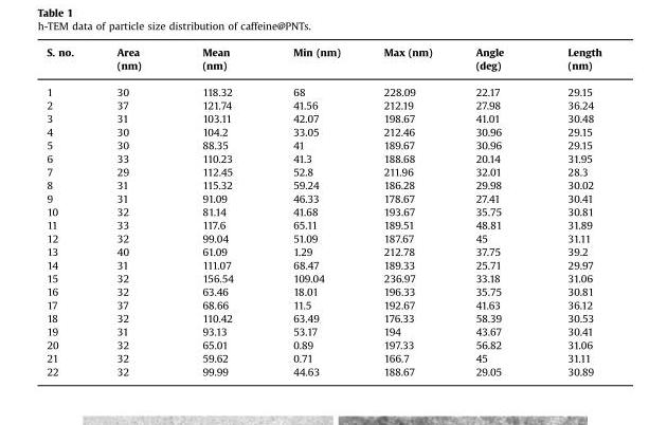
<table><thead><tr><td>S. no.</td><td>Area (nm)</td><td>Mean (nm)</td><td>Min (nm)</td><td>Max (nm)</td><td>Angle (deg)</td><td>Length (nm)</td></tr></thead><tbody><tr><td>1</td><td>30</td><td>118.32</td><td>68</td><td>228.09</td><td>22.17</td><td>29.15</td></tr><tr><td>2</td><td>37</td><td>121.74</td><td>41.56</td><td>212.19</td><td>27.98</td><td>36.24</td></tr><tr><td>3</td><td>31</td><td>103.11</td><td>42.07</td><td>198.67</td><td>41.01</td><td>30.48</td></tr><tr><td>4</td><td>30</td><td>104.2</td><td>33.05</td><td>212.46</td><td>30.96</td><td>29.15</td></tr><tr><td>5</td><td>30</td><td>88.35</td><td>41</td><td>189.67</td><td>30.96</td><td>29.15</td></tr><tr><td>6</td><td>33</td><td>110.23</td><td>41.3</td><td>188.68</td><td>20.14</td><td>31.95</td></tr><tr><td>7</td><td>29</td><td>112.45</td><td>52.8</td><td>211.96</td><td>32.01</td><td>28.3</td></tr><tr><td>8</td><td>31</td><td>115.32</td><td>59.24</td><td>186.28</td><td>29.98</td><td>30.02</td></tr><tr><td>9</td><td>31</td><td>91.09</td><td>46.33</td><td>178.67</td><td>27.41</td><td>30.41</td></tr><tr><td>10</td><td>32</td><td>81.14</td><td>41.68</td><td>193.67</td><td>35.75</td><td>30.81</td></tr><tr><td>11</td><td>33</td><td>117.6</td><td>65.11</td><td>189.51</td><td>48.81</td><td>31.89</td></tr><tr><td>12</td><td>32</td><td>99.04</td><td>51.09</td><td>187.67</td><td>45</td><td>31.11</td></tr><tr><td>13</td><td>40</td><td>61.09</td><td>1.29</td><td>212.78</td><td>37.75</td><td>39.2</td></tr><tr><td>14</td><td>31</td><td>111.07</td><td>68.47</td><td>189.33</td><td>25.71</td><td>29.97</td></tr><tr><td>15</td><td>32</td><td>156.54</td><td>109.04</td><td>236.97</td><td>33.18</td><td>31.06</td></tr><tr><td>16</td><td>32</td><td>63.46</td><td>18.01</td><td>196.33</td><td>35.75</td><td>30.81</td></tr><tr><td>17</td><td>37</td><td>68.66</td><td>11.5</td><td>192.67</td><td>41.63</td><td>36.12</td></tr><tr><td>18</td><td>32</td><td>110.42</td><td>63.49</td><td>176.33</td><td>58.39</td><td>30.53</td></tr><tr><td>19</td><td>31</td><td>93.13</td><td>53.17</td><td>194</td><td>43.67</td><td>30.41</td></tr><tr><td>20</td><td>32</td><td>65.01</td><td>0.89</td><td>197.33</td><td>56.82</td><td>31.06</td></tr><tr><td>21</td><td>32</td><td>59.62</td><td>0.71</td><td>166.7</td><td>45</td><td>31.11</td></tr><tr><td>22</td><td>32</td><td>99.99</td><td>44.63</td><td>188.67</td><td>29.05</td><td>30.89</td></tr></tbody></table>